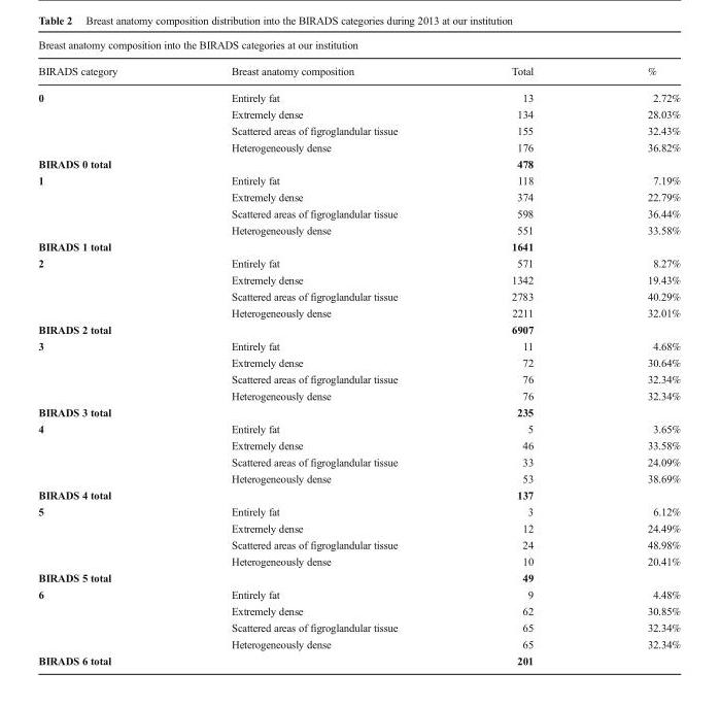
<table><thead><tr><td colspan="4">Breast anatomy composition into the BIRADS categories at our institution</td></tr><tr><td>BIRADS category</td><td>Breast anatomy composition</td><td>Total</td><td>%</td></tr></thead><tbody><tr><td rowspan="4">0</td><td>Entirely fat</td><td>13</td><td>2.72%</td></tr><tr><td>Extremely dense</td><td>134</td><td>28.03%</td></tr><tr><td>Scattered areas of figroglandular tissue</td><td>155</td><td>32.43%</td></tr><tr><td>Heterogeneously dense</td><td>176</td><td>36.82%</td></tr><tr><td>BIRADS 0 total</td><td></td><td>478</td><td></td></tr><tr><td rowspan="4">1</td><td>Entirely fat</td><td>118</td><td>7.19%</td></tr><tr><td>Extremely dense</td><td>374</td><td>22.79%</td></tr><tr><td>Scattered areas of figroglandular tissue</td><td>598</td><td>36.44%</td></tr><tr><td>Heterogeneously dense</td><td>551</td><td>33.58%</td></tr><tr><td>BIRADS 1 total</td><td></td><td>1641</td><td></td></tr><tr><td rowspan="4">2</td><td>Entirely fat</td><td>571</td><td>8.27%</td></tr><tr><td>Extremely dense</td><td>1342</td><td>19.43%</td></tr><tr><td>Scattered areas of figroglandular tissue</td><td>2783</td><td>40.29%</td></tr><tr><td>Heterogeneously dense</td><td>2211</td><td>32.01%</td></tr><tr><td>BIRADS 2 total</td><td></td><td>6907</td><td></td></tr><tr><td rowspan="4">3</td><td>Entirely fat</td><td>11</td><td>4.68%</td></tr><tr><td>Extremely dense</td><td>72</td><td>30.64%</td></tr><tr><td>Scattered areas of figroglandular tissue</td><td>76</td><td>32.34%</td></tr><tr><td>Heterogeneously dense</td><td>76</td><td>32.34%</td></tr><tr><td>BIRADS 3 total</td><td></td><td>235</td><td></td></tr><tr><td rowspan="4">4</td><td>Entirely fat</td><td>5</td><td>3.65%</td></tr><tr><td>Extremely dense</td><td>46</td><td>33.58%</td></tr><tr><td>Scattered areas of figroglandular tissue</td><td>33</td><td>24.09%</td></tr><tr><td>Heterogeneously dense</td><td>53</td><td>38.69%</td></tr><tr><td>BIRADS 4 total</td><td></td><td>137</td><td></td></tr><tr><td rowspan="4">5</td><td>Entirely fat</td><td>3</td><td>6.12%</td></tr><tr><td>Extremely dense</td><td>12</td><td>24.49%</td></tr><tr><td>Scattered areas of figroglandular tissue</td><td>24</td><td>48.98%</td></tr><tr><td>Heterogeneously dense</td><td>10</td><td>20.41%</td></tr><tr><td>BIRADS 5 total</td><td></td><td>49</td><td></td></tr><tr><td rowspan="4">6</td><td>Entirely fat</td><td>9</td><td>4.48%</td></tr><tr><td>Extremely dense</td><td>62</td><td>30.85%</td></tr><tr><td>Scattered areas of figroglandular tissue</td><td>65</td><td>32.34%</td></tr><tr><td>Heterogeneously dense</td><td>65</td><td>32.34%</td></tr><tr><td>BIRADS 6 total</td><td></td><td>201</td><td></td></tr></tbody></table>